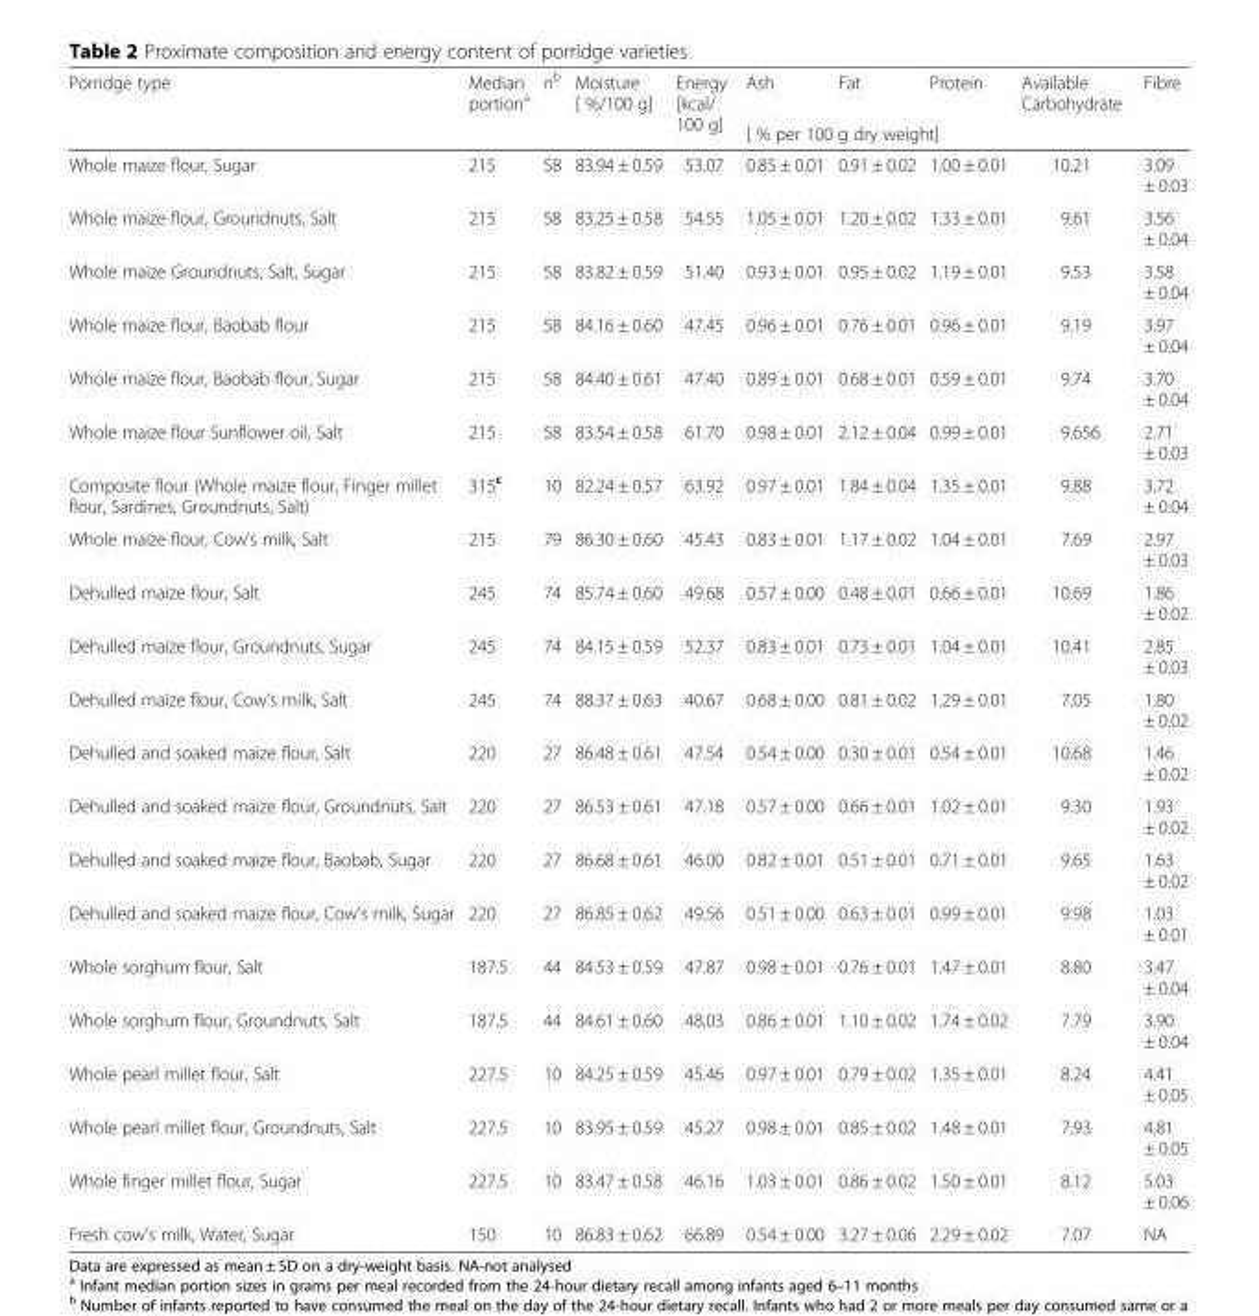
<table><thead><tr><td rowspan="2">Porridge type</td><td rowspan="2">Median portion<sup>a</sup></td><td rowspan="2">n<sup>b</sup></td><td rowspan="2">Moisture [ %/100 g]</td><td rowspan="2">Energy [kcal/ 100 g]</td><td>Ash</td><td>Fat</td><td>Protein</td><td>Available Carbohydrate</td><td>Fibre</td></tr><tr><td colspan="5">[ % per 100 g dry weight]</td></tr></thead><tbody><tr><td>Whole maize flour, Sugar</td><td>215</td><td>58</td><td>83.94 ± 0.59</td><td>53.07</td><td>0.85 ± 0.01</td><td>0.91 ± 0.02</td><td>1.00 ± 0.01</td><td>10.21</td><td>3.09 ± 0.03</td></tr><tr><td>Whole maize flour, Groundnuts, Salt</td><td>215</td><td>58</td><td>83.25 ± 0.58</td><td>54.55</td><td>1.05 ± 0.01</td><td>1.20 ± 0.02</td><td>1.33 ± 0.01</td><td>9.61</td><td>3.56 ± 0.04</td></tr><tr><td>Whole maize Groundnuts, Salt, Sugar</td><td>215</td><td>58</td><td>83.82 ± 0.59</td><td>51.40</td><td>0.93 ± 0.01</td><td>0.95 ± 0.02</td><td>1.19 ± 0.01</td><td>9.53</td><td>3.58 ± 0.04</td></tr><tr><td>Whole maize flour, Baobab flour</td><td>215</td><td>58</td><td>84.16 ± 0.60</td><td>47.45</td><td>0.96 ± 0.01</td><td>0.76 ± 0.01</td><td>0.96 ± 0.01</td><td>9.19</td><td>3.97 ± 0.04</td></tr><tr><td>Whole maize flour, Baobab flour, Sugar</td><td>215</td><td>58</td><td>84.40 ± 0.61</td><td>47.40</td><td>0.89 ± 0.01</td><td>0.68 ± 0.01</td><td>0.59 ± 0.01</td><td>9.74</td><td>3.70 ± 0.04</td></tr><tr><td>Whole maize flour Sunflower oil, Salt</td><td>215</td><td>58</td><td>83.54 ± 0.58</td><td>61.70</td><td>0.98 ± 0.01</td><td>2.12 ± 0.04</td><td>0.99 ± 0.01</td><td>9.656</td><td>2.71 ± 0.03</td></tr><tr><td>Composite flour (Whole maize flour, Finger millet flour, Sardines, Groundnuts, Salt)</td><td>315<sup>c</sup></td><td>10</td><td>82.24 ± 0.57</td><td>63.92</td><td>0.97 ± 0.01</td><td>1.84 ± 0.04</td><td>1.35 ± 0.01</td><td>9.88</td><td>3.72 ± 0.04</td></tr><tr><td>Whole maize flour, Cow’s milk, Salt</td><td>215</td><td>79</td><td>86.30 ± 0.60</td><td>45.43</td><td>0.83 ± 0.01</td><td>1.17 ± 0.02</td><td>1.04 ± 0.01</td><td>7.69</td><td>2.97 ± 0.03</td></tr><tr><td>Dehulled maize flour, Salt</td><td>245</td><td>74</td><td>85.74 ± 0.60</td><td>49.68</td><td>0.57 ± 0.00</td><td>0.48 ± 0.01</td><td>0.66 ± 0.01</td><td>10.69</td><td>1.86 ± 0.02</td></tr><tr><td>Dehulled maize flour, Groundnuts, Sugar</td><td>245</td><td>74</td><td>84.15 ± 0.59</td><td>52.37</td><td>0.83 ± 0.01</td><td>0.73 ± 0.01</td><td>1.04 ± 0.01</td><td>10.41</td><td>2.85 ± 0.03</td></tr><tr><td>Dehulled maize flour, Cow’s milk, Salt</td><td>245</td><td>74</td><td>88.37 ± 0.63</td><td>40.67</td><td>0.68 ± 0.00</td><td>0.81 ± 0.02</td><td>1.29 ± 0.01</td><td>7.05</td><td>1.80 ± 0.02</td></tr><tr><td>Dehulled and soaked maize flour, Salt</td><td>220</td><td>27</td><td>86.48 ± 0.61</td><td>47.54</td><td>0.54 ± 0.00</td><td>0.30 ± 0.01</td><td>0.54 ± 0.01</td><td>10.68</td><td>1.46 ± 0.02</td></tr><tr><td>Dehulled and soaked maize flour, Groundnuts, Salt</td><td>220</td><td>27</td><td>86.53 ± 0.61</td><td>47.18</td><td>0.57 ± 0.00</td><td>0.66 ± 0.01</td><td>1.02 ± 0.01</td><td>9.30</td><td>1.93 ± 0.02</td></tr><tr><td>Dehulled and soaked maize flour, Baobab, Sugar</td><td>220</td><td>27</td><td>86.68 ± 0.61</td><td>46.00</td><td>0.82 ± 0.01</td><td>0.51 ± 0.01</td><td>0.71 ± 0.01</td><td>9.65</td><td>1.63 ± 0.02</td></tr><tr><td>Dehulled and soaked maize flour, Cow’s milk, Sugar</td><td>220</td><td>27</td><td>86.85 ± 0.62</td><td>49.56</td><td>0.51 ± 0.00</td><td>0.63 ± 0.01</td><td>0.99 ± 0.01</td><td>9.98</td><td>1.03 ± 0.01</td></tr><tr><td>Whole sorghum flour, Salt</td><td>187.5</td><td>44</td><td>84.53 ± 0.59</td><td>47.87</td><td>0.98 ± 0.01</td><td>0.76 ± 0.01</td><td>1.47 ± 0.01</td><td>8.80</td><td>3.47 ± 0.04</td></tr><tr><td>Whole sorghum flour, Groundnuts, Salt</td><td>187.5</td><td>44</td><td>84.61 ± 0.60</td><td>48.03</td><td>0.86 ± 0.01</td><td>1.10 ± 0.02</td><td>1.74 ± 0.02</td><td>7.79</td><td>3.90 ± 0.04</td></tr><tr><td>Whole pearl millet flour, Salt</td><td>227.5</td><td>10</td><td>84.25 ± 0.59</td><td>45.46</td><td>0.97 ± 0.01</td><td>0.79 ± 0.02</td><td>1.35 ± 0.01</td><td>8.24</td><td>4.41 ± 0.05</td></tr><tr><td>Whole pearl millet flour, Groundnuts, Salt</td><td>227.5</td><td>10</td><td>83.95 ± 0.59</td><td>45.27</td><td>0.98 ± 0.01</td><td>0.85 ± 0.02</td><td>1.48 ± 0.01</td><td>7.93</td><td>4.81 ± 0.05</td></tr><tr><td>Whole finger millet flour, Sugar</td><td>227.5</td><td>10</td><td>83.47 ± 0.58</td><td>46.16</td><td>1.03 ± 0.01</td><td>0.86 ± 0.02</td><td>1.50 ± 0.01</td><td>8.12</td><td>5.03 ± 0.06</td></tr><tr><td>Fresh cow’s milk, Water, Sugar</td><td>150</td><td>10</td><td>86.83 ± 0.62</td><td>66.89</td><td>0.54 ± 0.00</td><td>3.27 ± 0.06</td><td>2.29 ± 0.02</td><td>7.07</td><td>NA</td></tr></tbody></table>